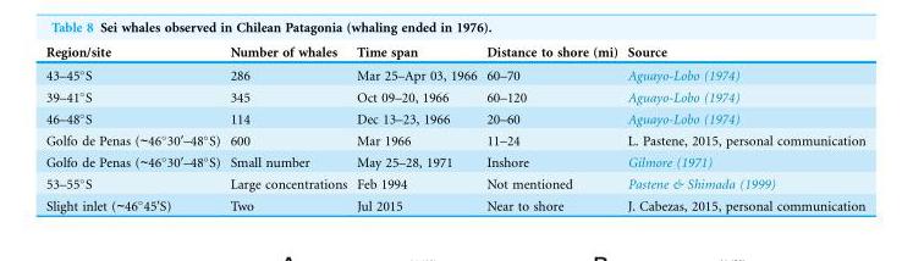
<table><thead><tr><td>Region/site</td><td>Number of whales</td><td>Time span</td><td>Distance to shore (mi)</td><td>Source</td></tr></thead><tbody><tr><td>43–45°S</td><td>286</td><td>Mar 25–Apr 03, 1966</td><td>60–70</td><td>Aguayo-Lobo (1974)</td></tr><tr><td>39–41°S</td><td>345</td><td>Oct 09–20, 1966</td><td>60–120</td><td>Aguayo-Lobo (1974)</td></tr><tr><td>46–48°S</td><td>114</td><td>Dec 13–23, 1966</td><td>20–60</td><td>Aguayo-Lobo (1974)</td></tr><tr><td>Golfo de Penas (∼46°30′–48°S)</td><td>600</td><td>Mar 1966</td><td>11–24</td><td>L. Pastene, 2015, personal communication</td></tr><tr><td>Golfo de Penas (∼46°30′–48°S)</td><td>Small number</td><td>May 25–28, 1971</td><td>Inshore</td><td>Gilmore (1971)</td></tr><tr><td>53–55°S</td><td>Large concentrations</td><td>Feb 1994</td><td>Not mentioned</td><td>Pastene &amp; Shimada (1999)</td></tr><tr><td>Slight inlet (∼46°45′S)</td><td>Two</td><td>Jul 2015</td><td>Near to shore</td><td>J. Cabezas, 2015, personal communication</td></tr></tbody></table>